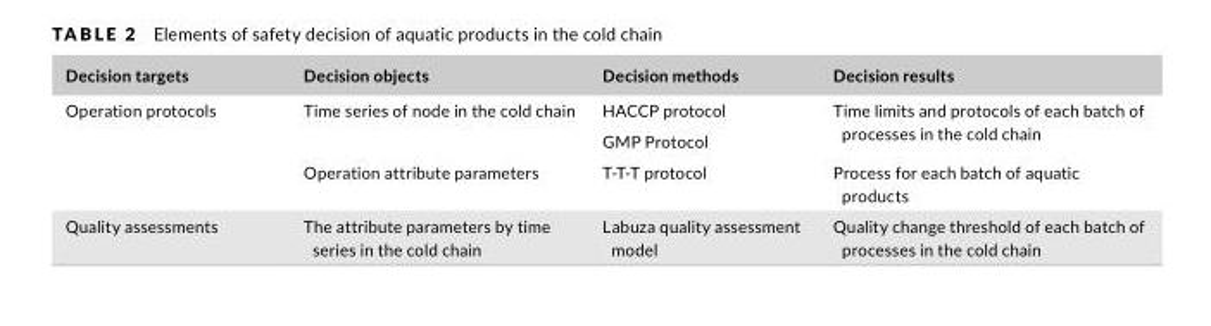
<table><thead><tr><td>Decision targets</td><td>Decision objects</td><td>Decision methods</td><td>Decision results</td></tr></thead><tbody><tr><td rowspan="3">Operation protocols</td><td rowspan="2">Time series of node in the cold chain</td><td>HACCP protocol</td><td rowspan="2">Time limits and protocols of each batch of processes in the cold chain</td></tr><tr><td>GMP Protocol</td></tr><tr><td>Operation attribute parameters</td><td>T- T- T protocol</td><td>Process for each batch of aquatic products</td></tr><tr><td>Quality assessments</td><td>The attribute parameters by time series in the cold chain</td><td>Labuza quality assessment model</td><td>Quality change threshold of each batch of processes in the cold chain</td></tr></tbody></table>